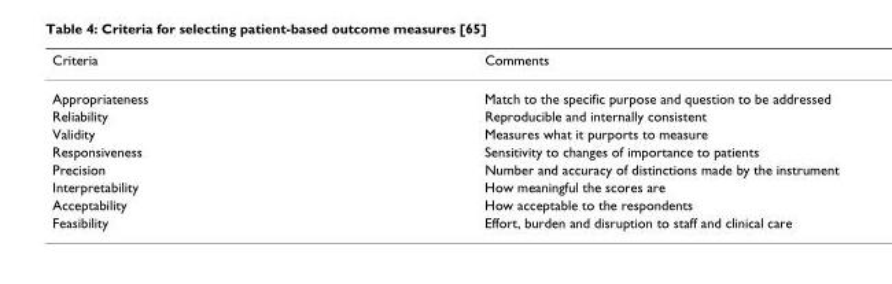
<table><thead><tr><td>Criteria</td><td>Comments</td></tr></thead><tbody><tr><td>Appropriateness</td><td>Match to the specific purpose and question to be addressed</td></tr><tr><td>Reliability</td><td>Reproducible and internally consistent</td></tr><tr><td>Validity</td><td>Measures what it purports to measure</td></tr><tr><td>Responsiveness</td><td>Sensitivity to changes of importance to patients</td></tr><tr><td>Precision</td><td>Number and accuracy of distinctions made by the instrument</td></tr><tr><td>Interpretability</td><td>How meaningful the scores are</td></tr><tr><td>Acceptability</td><td>How acceptable to the respondents</td></tr><tr><td>Feasibility</td><td>Effort, burden and disruption to staff and clinical care</td></tr></tbody></table>